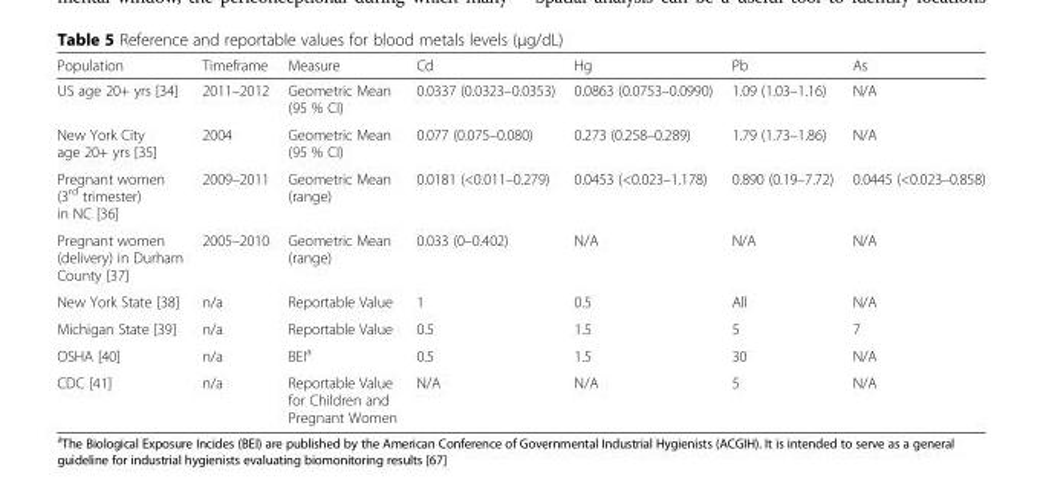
<table><thead><tr><td>Population</td><td>Timeframe</td><td>Measure</td><td>Cd</td><td>Hg</td><td>Pb</td><td>As</td></tr></thead><tbody><tr><td>US age 20+ yrs [34]</td><td>2011–2012</td><td>Geometric Mean (95 % CI)</td><td>0.0337 (0.0323–0.0353)</td><td>0.0863 (0.0753–0.0990)</td><td>1.09 (1.03–1.16)</td><td>N/A</td></tr><tr><td>New York City age 20+ yrs [35]</td><td>2004</td><td>Geometric Mean (95 % CI)</td><td>0.077 (0.075–0.080)</td><td>0.273 (0.258–0.289)</td><td>1.79 (1.73–1.86)</td><td>N/A</td></tr><tr><td>Pregnant women (3<sup>rd</sup> trimester) in NC [36]</td><td>2009–2011</td><td>Geometric Mean (range)</td><td>0.0181 (&lt;0.011–0.279)</td><td>0.0453 (&lt;0.023–1.178)</td><td>0.890 (0.19–7.72)</td><td>0.0445 (&lt;0.023–0.858)</td></tr><tr><td>Pregnant women (delivery) in Durham County [37]</td><td>2005–2010</td><td>Geometric Mean (range)</td><td>0.033 (0–0.402)</td><td>N/A</td><td>N/A</td><td>N/A</td></tr><tr><td>New York State [38]</td><td>n/a</td><td>Reportable Value</td><td>1</td><td>0.5</td><td>All</td><td>N/A</td></tr><tr><td>Michigan State [39]</td><td>n/a</td><td>Reportable Value</td><td>0.5</td><td>1.5</td><td>5</td><td>7</td></tr><tr><td>OSHA [40]</td><td>n/a</td><td>BEI<sup>a</sup></td><td>0.5</td><td>1.5</td><td>30</td><td>N/A</td></tr><tr><td>CDC [41]</td><td>n/a</td><td>Reportable Value for Children and Pregnant Women</td><td>N/A</td><td>N/A</td><td>5</td><td>N/A</td></tr></tbody></table>